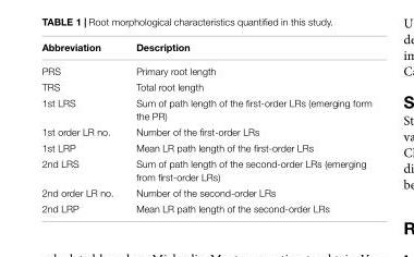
<table><thead><tr><td>Abbreviation</td><td>Description</td></tr></thead><tbody><tr><td>PRS</td><td>Primary root length</td></tr><tr><td>TRS</td><td>Total root length</td></tr><tr><td>1st LRS</td><td>Sum of path length of the first-order LRs (emerging form the PR)</td></tr><tr><td>1st order LR no.</td><td>Number of the first-order LRs</td></tr><tr><td>1st LRP</td><td>Mean LR path length of the first-order LRs</td></tr><tr><td>2nd LRS</td><td>Sum of path length of the second-order LRs (emerging from first-order LRs)</td></tr><tr><td>2nd order LR no.</td><td>Number of the second-order LRs</td></tr><tr><td>2nd LRP</td><td>Mean LR path length of the second-order LRs</td></tr></tbody></table>